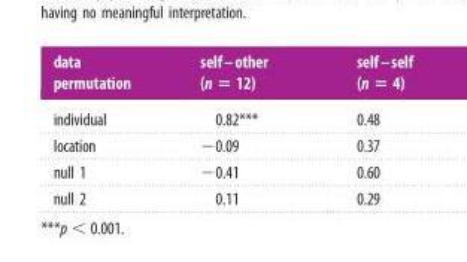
<table><thead><tr><td>data permutation</td><td>self–other (n = 12)</td><td>self–self (n = 4)</td></tr></thead><tbody><tr><td>individual</td><td>0.82***</td><td>0.48</td></tr><tr><td>location</td><td>−0.09</td><td>0.37</td></tr><tr><td>null 1</td><td>−0.41</td><td>0.60</td></tr><tr><td>null 2</td><td>0.11</td><td>0.29</td></tr></tbody></table>